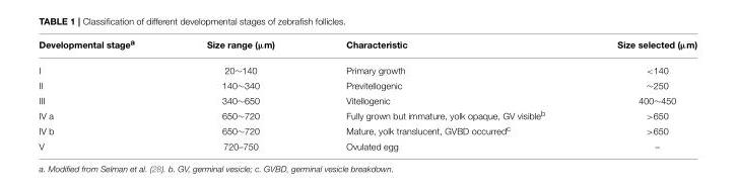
<table><thead><tr><td>Developmental stage<sup>a</sup></td><td>Size range (µm)</td><td>Characteristic</td><td>Size selected (µm)</td></tr></thead><tbody><tr><td>I</td><td>20∼140</td><td>Primary growth</td><td>&lt;140</td></tr><tr><td>II</td><td>140∼340</td><td>Previtellogenic</td><td>∼250</td></tr><tr><td>III</td><td>340∼650</td><td>Vitellogenic</td><td>400∼450</td></tr><tr><td>IV a</td><td>650∼720</td><td>Fully grown but immature, yolk opaque, GV visible<sup>b</sup></td><td>&gt;650</td></tr><tr><td>IV b</td><td>650∼720</td><td>Mature, yolk translucent, GVBD occurred<sup>c</sup></td><td>&gt;650</td></tr><tr><td>V</td><td>720–750</td><td>Ovulated egg</td><td>–</td></tr></tbody></table>